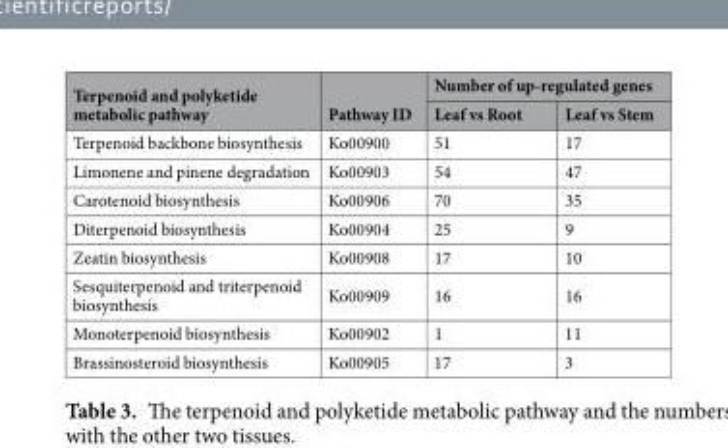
<table><thead><tr><td rowspan="2">Terpenoid and polyketide metabolic pathway</td><td rowspan="2">Pathway ID</td><td colspan="2">Number of up-regulated genes</td></tr><tr><td>Leaf vs Root</td><td>Leaf vs Stem</td></tr></thead><tbody><tr><td>Terpenoid backbone biosynthesis</td><td>Ko00900</td><td>51</td><td>17</td></tr><tr><td>Limonene and pinene degradation</td><td>Ko00903</td><td>54</td><td>47</td></tr><tr><td>Carotenoid biosynthesis</td><td>Ko00906</td><td>70</td><td>35</td></tr><tr><td>Diterpenoid biosynthesis</td><td>Ko00904</td><td>25</td><td>9</td></tr><tr><td>Zeatin biosynthesis</td><td>Ko00908</td><td>17</td><td>10</td></tr><tr><td>Sesquiterpenoid and triterpenoid biosynthesis</td><td>Ko00909</td><td>16</td><td>16</td></tr><tr><td>Monoterpenoid biosynthesis</td><td>Ko00902</td><td>1</td><td>11</td></tr><tr><td>Brassinosteroid biosynthesis</td><td>Ko00905</td><td>17</td><td>3</td></tr></tbody></table>